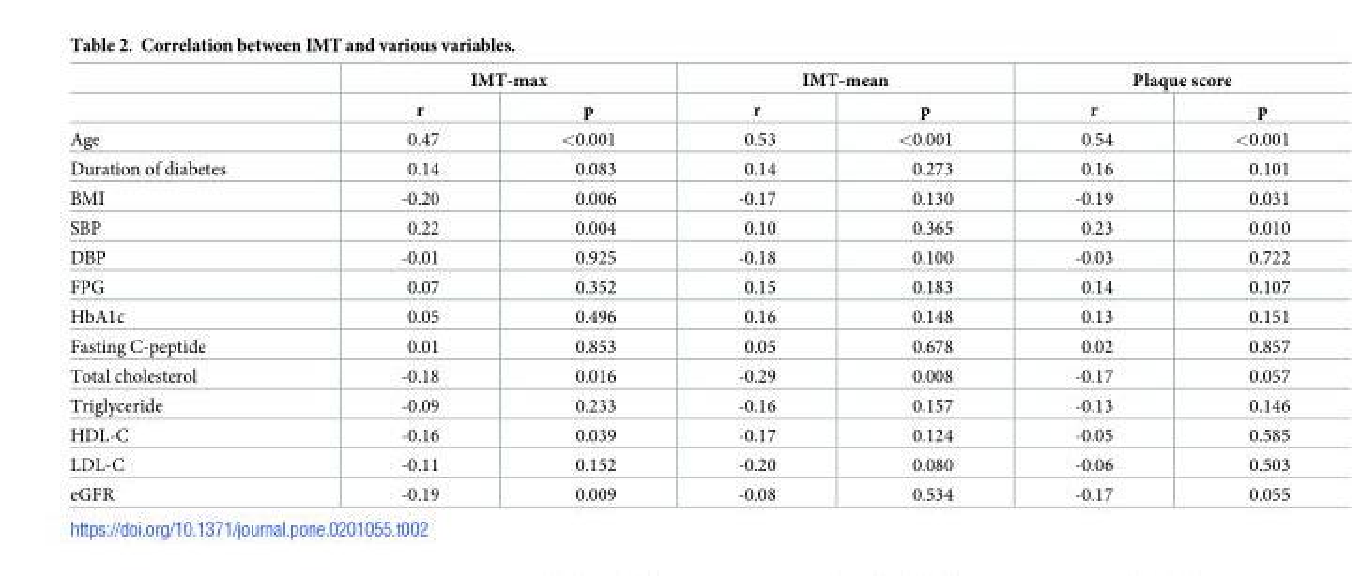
<table><thead><tr><td rowspan="2"></td><td colspan="2">IMT-max</td><td colspan="2">IMT-mean</td><td colspan="2">Plaque score</td></tr><tr><td>r</td><td>p</td><td>r</td><td>p</td><td>r</td><td>p</td></tr></thead><tbody><tr><td>Age</td><td>0.47</td><td>&lt;0.001</td><td>0.53</td><td>&lt;0.001</td><td>0.54</td><td>&lt;0.001</td></tr><tr><td>Duration of diabetes</td><td>0.14</td><td>0.083</td><td>0.14</td><td>0.273</td><td>0.16</td><td>0.101</td></tr><tr><td>BMI</td><td>-0.20</td><td>0.006</td><td>-0.17</td><td>0.130</td><td>-0.19</td><td>0.031</td></tr><tr><td>SBP</td><td>0.22</td><td>0.004</td><td>0.10</td><td>0.365</td><td>0.23</td><td>0.010</td></tr><tr><td>DBP</td><td>-0.01</td><td>0.925</td><td>-0.18</td><td>0.100</td><td>-0.03</td><td>0.722</td></tr><tr><td>FPG</td><td>0.07</td><td>0.352</td><td>0.15</td><td>0.183</td><td>0.14</td><td>0.107</td></tr><tr><td>HbA1c</td><td>0.05</td><td>0.496</td><td>0.16</td><td>0.148</td><td>0.13</td><td>0.151</td></tr><tr><td>Fasting C-peptide</td><td>0.01</td><td>0.853</td><td>0.05</td><td>0.678</td><td>0.02</td><td>0.857</td></tr><tr><td>Total cholesterol</td><td>-0.18</td><td>0.016</td><td>-0.29</td><td>0.008</td><td>-0.17</td><td>0.057</td></tr><tr><td>Triglyceride</td><td>-0.09</td><td>0.233</td><td>-0.16</td><td>0.157</td><td>-0.13</td><td>0.146</td></tr><tr><td>HDL-C</td><td>-0.16</td><td>0.039</td><td>-0.17</td><td>0.124</td><td>-0.05</td><td>0.585</td></tr><tr><td>LDL-C</td><td>-0.11</td><td>0.152</td><td>-0.20</td><td>0.080</td><td>-0.06</td><td>0.503</td></tr><tr><td>eGFR</td><td>-0.19</td><td>0.009</td><td>-0.08</td><td>0.534</td><td>-0.17</td><td>0.055</td></tr></tbody></table>